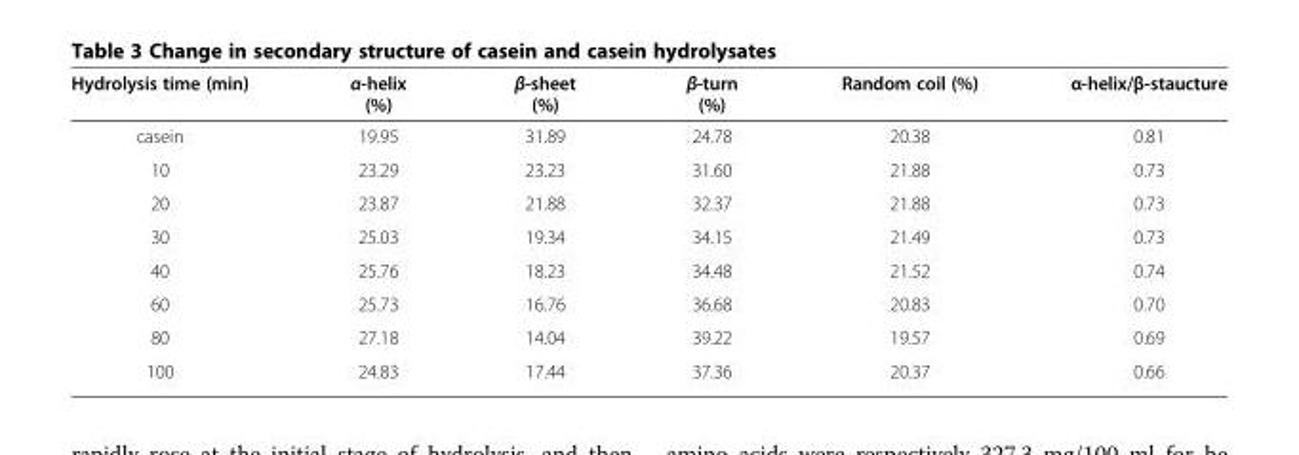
<table><thead><tr><td>Hydrolysis time (min)</td><td>α-helix (%)</td><td>β-sheet (%)</td><td>β-turn (%)</td><td>Random coil (%)</td><td>α-helix/β-staucture</td></tr></thead><tbody><tr><td>casein</td><td>19.95</td><td>31.89</td><td>24.78</td><td>20.38</td><td>0.81</td></tr><tr><td>10</td><td>23.29</td><td>23.23</td><td>31.60</td><td>21.88</td><td>0.73</td></tr><tr><td>20</td><td>23.87</td><td>21.88</td><td>32.37</td><td>21.88</td><td>0.73</td></tr><tr><td>30</td><td>25.03</td><td>19.34</td><td>34.15</td><td>21.49</td><td>0.73</td></tr><tr><td>40</td><td>25.76</td><td>18.23</td><td>34.48</td><td>21.52</td><td>0.74</td></tr><tr><td>60</td><td>25.73</td><td>16.76</td><td>36.68</td><td>20.83</td><td>0.70</td></tr><tr><td>80</td><td>27.18</td><td>14.04</td><td>39.22</td><td>19.57</td><td>0.69</td></tr><tr><td>100</td><td>24.83</td><td>17.44</td><td>37.36</td><td>20.37</td><td>0.66</td></tr></tbody></table>